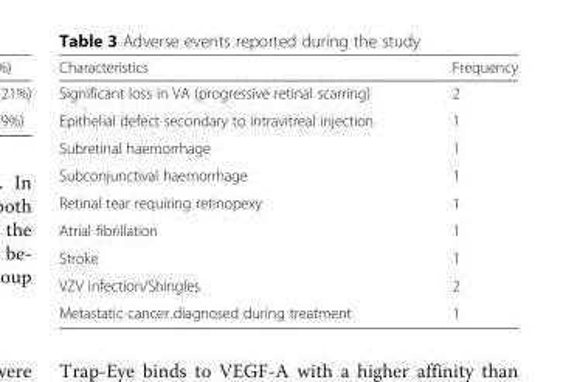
<table><thead><tr><td>Characteristics</td><td>Frequency</td></tr></thead><tbody><tr><td>Significant loss in VA (progressive retinal scarring)</td><td>2</td></tr><tr><td>Epithelial defect secondary to intravitreal injection</td><td>1</td></tr><tr><td>Subretinal haemorrhage</td><td>1</td></tr><tr><td>Subconjunctival haemorrhage</td><td>1</td></tr><tr><td>Retinal tear requiring retinopexy</td><td>1</td></tr><tr><td>Atrial fibrillation</td><td>1</td></tr><tr><td>Stroke</td><td>1</td></tr><tr><td>VZV infection/Shingles</td><td>2</td></tr><tr><td>Metastatic cancer diagnosed during treatment</td><td>1</td></tr></tbody></table>